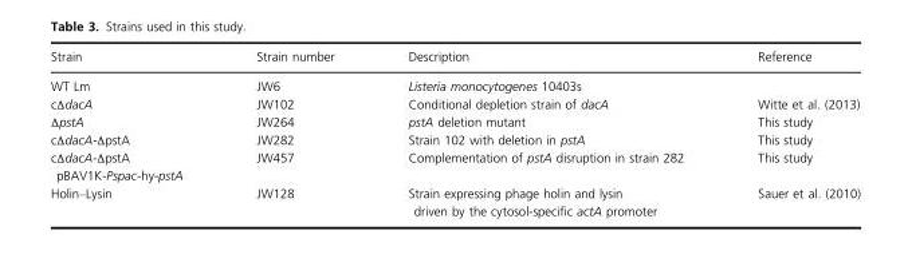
<table><thead><tr><td>Strain</td><td>Strain number</td><td>Description</td><td>Reference</td></tr></thead><tbody><tr><td>WT Lm</td><td>JW6</td><td>Listeria monocytogenes 10403s</td><td></td></tr><tr><td>cΔdacA</td><td>JW102</td><td>Conditional depletion strain of dacA</td><td>Witte et al. (2013)</td></tr><tr><td>ΔpstA</td><td>JW264</td><td>pstA deletion mutant</td><td>This study</td></tr><tr><td>cΔdacA-ΔpstA</td><td>JW282</td><td>Strain 102 with deletion in pstA</td><td>This study</td></tr><tr><td>cΔdacA-ΔpstA pBAV1K-Pspac-hy-pstA</td><td>JW457</td><td>Complementation of pstA disruption in strain 282</td><td>This study</td></tr><tr><td>Holin–Lysin</td><td>JW128</td><td>Strain expressing phage holin and lysin driven by the cytosol-specific actA promoter</td><td>Sauer et al. (2010)</td></tr></tbody></table>